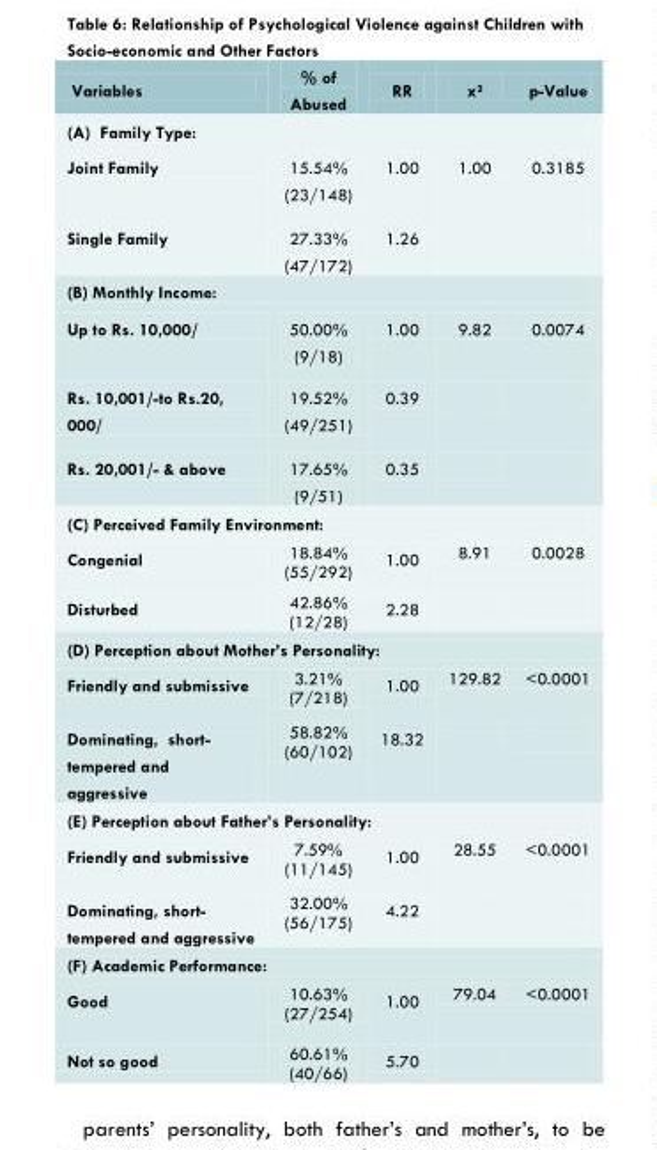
<table><thead><tr><td>Variables</td><td>% of Abused</td><td>RR</td><td>xP2</td><td>p-Value</td></tr></thead><tbody><tr><td colspan="5">(A) Family Type:</td></tr><tr><td>Joint Family</td><td>15.54% (23/148)</td><td>1.00</td><td>1.00</td><td>0.3185</td></tr><tr><td>Single Family</td><td>27.33% (47/172)</td><td>1.26</td><td></td><td></td></tr><tr><td colspan="5">(B) Monthly Income:</td></tr><tr><td>Up to Rs. 10,000/</td><td>50.00% (9/18)</td><td>1.00</td><td>9.82</td><td>0.0074</td></tr><tr><td>Rs. 10,001/-to Rs.20, 000/</td><td>19.52% (49/251)</td><td>0.39</td><td></td><td></td></tr><tr><td>Rs. 20,001/- &amp; above</td><td>17.65% (9/51)</td><td>0.35</td><td></td><td></td></tr><tr><td colspan="5">(C) Perceived Family Environment:</td></tr><tr><td>Congenial</td><td>18.84% (55/292)</td><td>1.00</td><td>8.91</td><td>0.0028</td></tr><tr><td>Disturbed</td><td>42.86% (12/28)</td><td>2.28</td><td></td><td></td></tr><tr><td colspan="5">(D) Perception about Mother’s Personality:</td></tr><tr><td>Friendly and submissive</td><td>3.21% (7/218)</td><td>1.00</td><td>129.82</td><td>&lt;0.0001</td></tr><tr><td>Dominating, short- tempered and aggressive</td><td>58.82% (60/102)</td><td>18.32</td><td></td><td></td></tr><tr><td colspan="5">(E) Perception about Father’s Personality:</td></tr><tr><td>Friendly and submissive</td><td>7.59% (11/145)</td><td>1.00</td><td>28.55</td><td>&lt;0.0001</td></tr><tr><td>Dominating, short- tempered and aggressive</td><td>32.00% (56/175)</td><td>4.22</td><td></td><td></td></tr><tr><td colspan="5">(F) Academic Performance:</td></tr><tr><td>Good</td><td>10.63% (27/254)</td><td>1.00</td><td>79.04</td><td>&lt;0.0001</td></tr><tr><td>Not so good</td><td>60.61% (40/66)</td><td>5.70</td><td></td><td></td></tr></tbody></table>